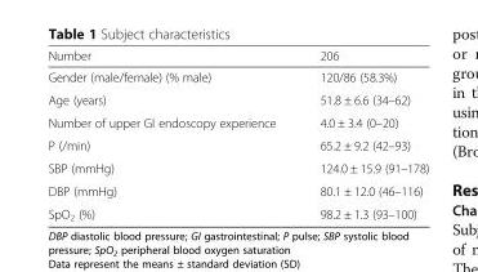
<table><thead><tr><td>Number</td><td>206</td></tr></thead><tbody><tr><td>Gender (male/female) (% male)</td><td>120/86 (58.3%)</td></tr><tr><td>Age (years)</td><td>51.8 ± 6.6 (34–62)</td></tr><tr><td>Number of upper GI endoscopy experience</td><td>4.0 ± 3.4 (0–20)</td></tr><tr><td>P (/min)</td><td>65.2 ± 9.2 (42–93)</td></tr><tr><td>SBP (mmHg)</td><td>124.0 ± 15.9 (91–178)</td></tr><tr><td>DBP (mmHg)</td><td>80.1 ± 12.0 (46–116)</td></tr><tr><td>SpO<sub>2</sub> (%)</td><td>98.2 ± 1.3 (93–100)</td></tr></tbody></table>